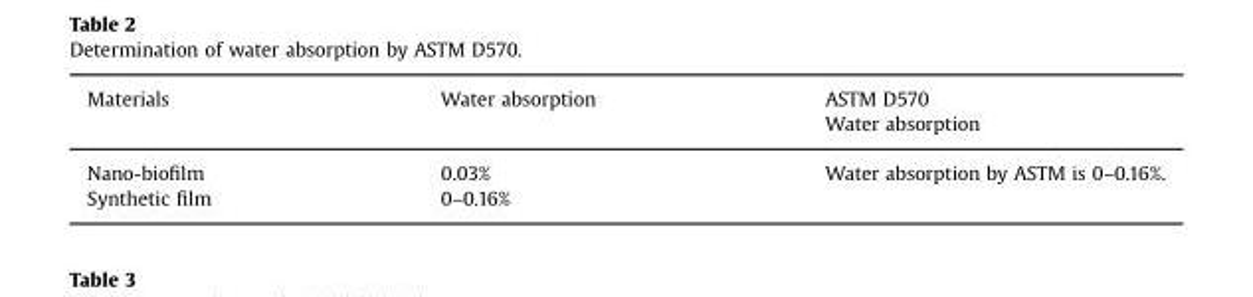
<table><thead><tr><td rowspan="2">Materials</td><td rowspan="2">Water absorption</td><td rowspan="2">ASTM D570 Water absorption</td></tr><tr></tr></thead><tbody><tr><td>Nano-biofilm</td><td>0.03%</td><td rowspan="2">Water absorption by ASTM is 0–0.16%.</td></tr><tr><td>Synthetic film</td><td>0–0.16%</td></tr></tbody></table>